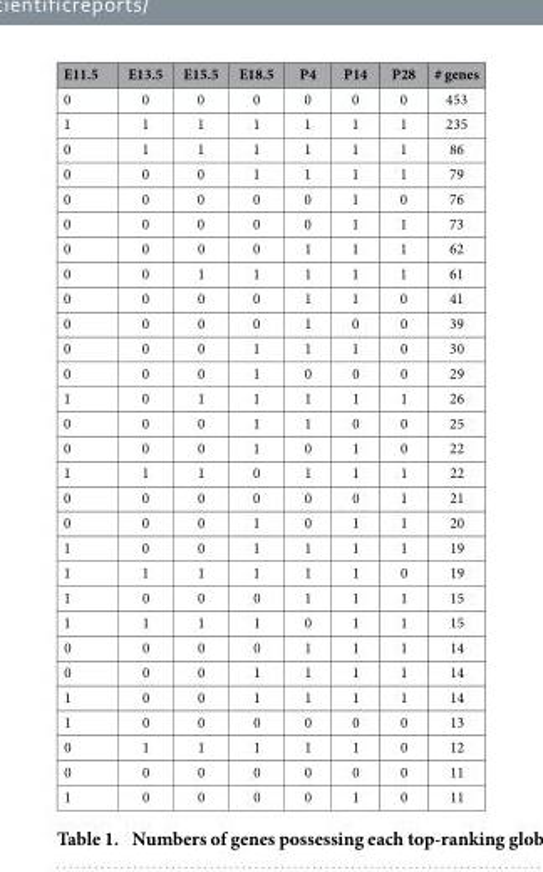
<table><thead><tr><td>E11.5</td><td>E13.5</td><td>E15.5</td><td>E18.5</td><td>P4</td><td>P14</td><td>P28</td><td># genes</td></tr></thead><tbody><tr><td>0</td><td>0</td><td>0</td><td>0</td><td>0</td><td>0</td><td>0</td><td>453</td></tr><tr><td>1</td><td>1</td><td>1</td><td>1</td><td>1</td><td>1</td><td>1</td><td>235</td></tr><tr><td>0</td><td>1</td><td>1</td><td>1</td><td>1</td><td>1</td><td>1</td><td>86</td></tr><tr><td>0</td><td>0</td><td>0</td><td>1</td><td>1</td><td>1</td><td>1</td><td>79</td></tr><tr><td>0</td><td>0</td><td>0</td><td>0</td><td>0</td><td>1</td><td>0</td><td>76</td></tr><tr><td>0</td><td>0</td><td>0</td><td>0</td><td>0</td><td>1</td><td>1</td><td>73</td></tr><tr><td>0</td><td>0</td><td>0</td><td>0</td><td>1</td><td>1</td><td>1</td><td>62</td></tr><tr><td>0</td><td>0</td><td>1</td><td>1</td><td>1</td><td>1</td><td>1</td><td>61</td></tr><tr><td>0</td><td>0</td><td>0</td><td>0</td><td>1</td><td>1</td><td>0</td><td>41</td></tr><tr><td>0</td><td>0</td><td>0</td><td>0</td><td>1</td><td>0</td><td>0</td><td>39</td></tr><tr><td>0</td><td>0</td><td>0</td><td>1</td><td>1</td><td>1</td><td>0</td><td>30</td></tr><tr><td>0</td><td>0</td><td>0</td><td>1</td><td>0</td><td>0</td><td>0</td><td>29</td></tr><tr><td>1</td><td>0</td><td>1</td><td>1</td><td>1</td><td>1</td><td>1</td><td>26</td></tr><tr><td>0</td><td>0</td><td>0</td><td>1</td><td>1</td><td>0</td><td>0</td><td>25</td></tr><tr><td>0</td><td>0</td><td>0</td><td>1</td><td>0</td><td>1</td><td>0</td><td>22</td></tr><tr><td>1</td><td>1</td><td>1</td><td>0</td><td>1</td><td>1</td><td>1</td><td>22</td></tr><tr><td>0</td><td>0</td><td>0</td><td>0</td><td>0</td><td>0</td><td>1</td><td>21</td></tr><tr><td>0</td><td>0</td><td>0</td><td>1</td><td>0</td><td>1</td><td>1</td><td>20</td></tr><tr><td>1</td><td>0</td><td>0</td><td>1</td><td>1</td><td>1</td><td>1</td><td>19</td></tr><tr><td>1</td><td>1</td><td>1</td><td>1</td><td>1</td><td>1</td><td>0</td><td>19</td></tr><tr><td>1</td><td>0</td><td>0</td><td>0</td><td>1</td><td>1</td><td>1</td><td>15</td></tr><tr><td>1</td><td>1</td><td>1</td><td>1</td><td>0</td><td>1</td><td>1</td><td>15</td></tr><tr><td>0</td><td>0</td><td>0</td><td>0</td><td>1</td><td>1</td><td>1</td><td>14</td></tr><tr><td>0</td><td>0</td><td>0</td><td>1</td><td>1</td><td>1</td><td>1</td><td>14</td></tr><tr><td>1</td><td>0</td><td>0</td><td>1</td><td>1</td><td>1</td><td>1</td><td>14</td></tr><tr><td>1</td><td>0</td><td>0</td><td>0</td><td>0</td><td>0</td><td>0</td><td>13</td></tr><tr><td>0</td><td>1</td><td>1</td><td>1</td><td>1</td><td>1</td><td>0</td><td>12</td></tr><tr><td>0</td><td>0</td><td>0</td><td>0</td><td>0</td><td>0</td><td>0</td><td>11</td></tr><tr><td>1</td><td>0</td><td>0</td><td>0</td><td>0</td><td>1</td><td>0</td><td>11</td></tr></tbody></table>